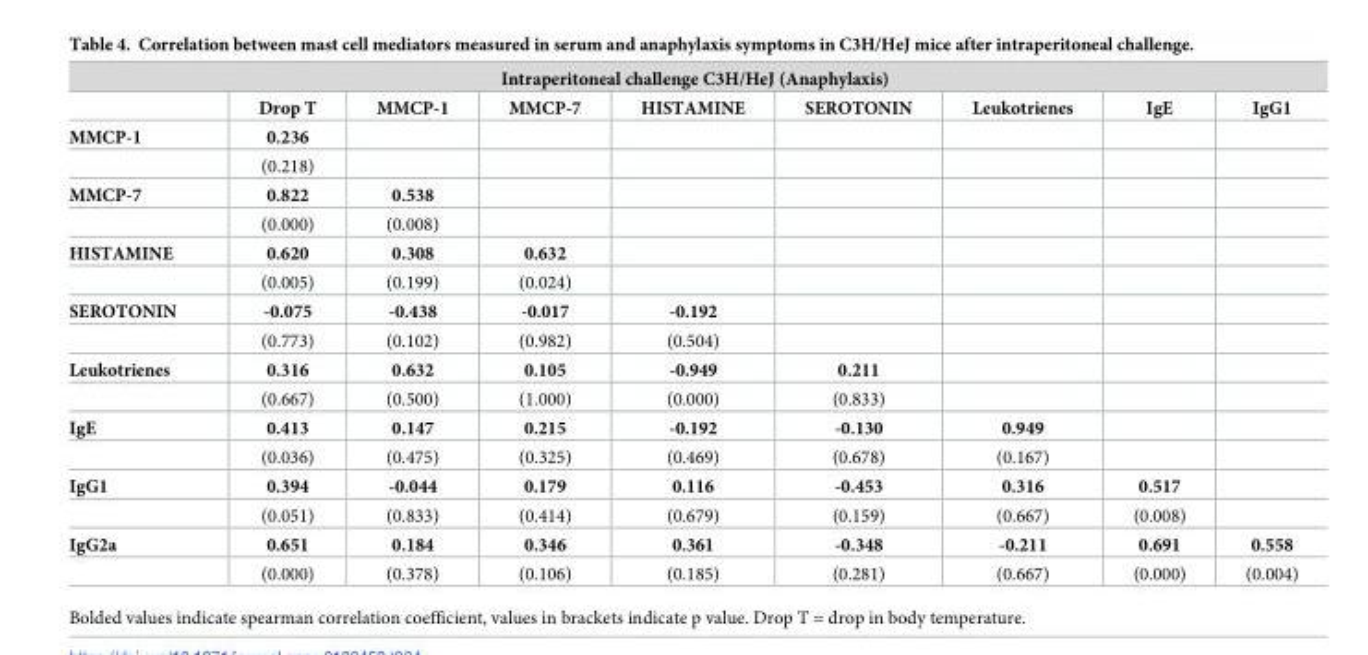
<table><thead><tr><td colspan="9">Intraperitoneal challenge C3H/HeJ (Anaphylaxis)</td></tr><tr><td></td><td>Drop T</td><td>MMCP-1</td><td>MMCP-7</td><td>HISTAMINE</td><td>SEROTONIN</td><td>Leukotrienes</td><td>IgE</td><td>IgG1</td></tr></thead><tbody><tr><td rowspan="2">MMCP-1</td><td>0.236</td><td></td><td></td><td></td><td></td><td></td><td></td><td></td></tr><tr><td>(0.218)</td><td></td><td></td><td></td><td></td><td></td><td></td><td></td></tr><tr><td rowspan="2">MMCP-7</td><td>0.822</td><td>0.538</td><td></td><td></td><td></td><td></td><td></td><td></td></tr><tr><td>(0.000)</td><td>(0.008)</td><td></td><td></td><td></td><td></td><td></td><td></td></tr><tr><td rowspan="2">HISTAMINE</td><td>0.620</td><td>0.308</td><td>0.632</td><td></td><td></td><td></td><td></td><td></td></tr><tr><td>(0.005)</td><td>(0.199)</td><td>(0.024)</td><td></td><td></td><td></td><td></td><td></td></tr><tr><td rowspan="2">SEROTONIN</td><td>-0.075</td><td>-0.438</td><td>-0.017</td><td>-0.192</td><td></td><td></td><td></td><td></td></tr><tr><td>(0.773)</td><td>(0.102)</td><td>(0.982)</td><td>(0.504)</td><td></td><td></td><td></td><td></td></tr><tr><td rowspan="2">Leukotrienes</td><td>0.316</td><td>0.632</td><td>0.105</td><td>-0.949</td><td>0.211</td><td></td><td></td><td></td></tr><tr><td>(0.667)</td><td>(0.500)</td><td>(1.000)</td><td>(0.000)</td><td>(0.833)</td><td></td><td></td><td></td></tr><tr><td rowspan="2">IgE</td><td>0.413</td><td>0.147</td><td>0.215</td><td>-0.192</td><td>-0.130</td><td>0.949</td><td></td><td></td></tr><tr><td>(0.036)</td><td>(0.475)</td><td>(0.325)</td><td>(0.469)</td><td>(0.678)</td><td>(0.167)</td><td></td><td></td></tr><tr><td rowspan="2">IgG1</td><td>0.394</td><td>-0.044</td><td>0.179</td><td>0.116</td><td>-0.453</td><td>0.316</td><td>0.517</td><td></td></tr><tr><td>(0.051)</td><td>(0.833)</td><td>(0.414)</td><td>(0.679)</td><td>(0.159)</td><td>(0.667)</td><td>(0.008)</td><td></td></tr><tr><td rowspan="2">IgG2a</td><td>0.651</td><td>0.184</td><td>0.346</td><td>0.361</td><td>-0.348</td><td>-0.211</td><td>0.691</td><td>0.558</td></tr><tr><td>(0.000)</td><td>(0.378)</td><td>(0.106)</td><td>(0.185)</td><td>(0.281)</td><td>(0.667)</td><td>(0.000)</td><td>(0.004)</td></tr></tbody></table>